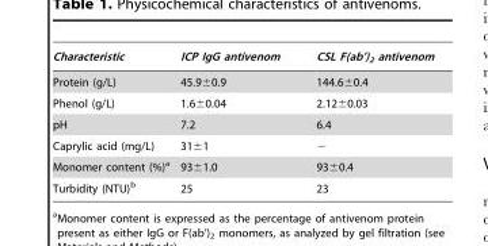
<table><thead><tr><td>Characteristic</td><td>ICP IgG antivenom</td><td>CSL F(ab’)<sub>2</sub> antivenom</td></tr></thead><tbody><tr><td>Protein (g/L)</td><td>45.9±0.9</td><td>144.6±0.4</td></tr><tr><td>Phenol (g/L)</td><td>1.6±0.04</td><td>2.12±0.03</td></tr><tr><td>pH</td><td>7.2</td><td>6.4</td></tr><tr><td>Caprylic acid (mg/L)</td><td>31±1</td><td>−</td></tr><tr><td>Monomer content (%)<sup>a</sup></td><td>93±1.0</td><td>93±0.4</td></tr><tr><td>Turbidity (NTU)<sup>b</sup></td><td>25</td><td>23</td></tr></tbody></table>